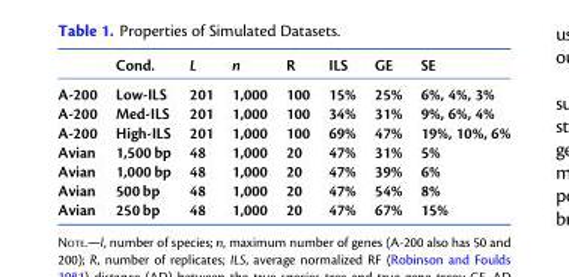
<table><thead><tr><td></td><td>Cond.</td><td>L</td><td>n</td><td>R</td><td>ILS</td><td>GE</td><td>SE</td></tr></thead><tbody><tr><td>A-200</td><td>Low-ILS</td><td>201</td><td>1,000</td><td>100</td><td>15%</td><td>25%</td><td>6%, 4%, 3%</td></tr><tr><td>A-200</td><td>Med-ILS</td><td>201</td><td>1,000</td><td>100</td><td>34%</td><td>31%</td><td>9%, 6%, 4%</td></tr><tr><td>A-200</td><td>High-ILS</td><td>201</td><td>1,000</td><td>100</td><td>69%</td><td>47%</td><td>19%, 10%, 6%</td></tr><tr><td>Avian</td><td>1,500 bp</td><td>48</td><td>1,000</td><td>20</td><td>47%</td><td>31%</td><td>5%</td></tr><tr><td>Avian</td><td>1,000 bp</td><td>48</td><td>1,000</td><td>20</td><td>47%</td><td>39%</td><td>6%</td></tr><tr><td>Avian</td><td>500 bp</td><td>48</td><td>1,000</td><td>20</td><td>47%</td><td>54%</td><td>8%</td></tr><tr><td>Avian</td><td>250 bp</td><td>48</td><td>1,000</td><td>20</td><td>47%</td><td>67%</td><td>15%</td></tr></tbody></table>